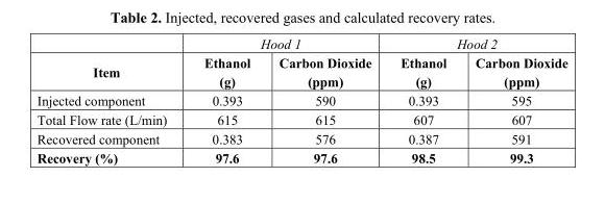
<table><thead><tr><td rowspan="2">Item</td><td colspan="2">Hood 1</td><td colspan="2">Hood 2</td></tr><tr><td>Ethanol (g)</td><td>Carbon Dioxide (ppm)</td><td>Ethanol (g)</td><td>Carbon Dioxide (ppm)</td></tr></thead><tbody><tr><td>Injected component</td><td>0.393</td><td>590</td><td>0.393</td><td>595</td></tr><tr><td>Total Flow rate (L/min)</td><td>615</td><td>615</td><td>607</td><td>607</td></tr><tr><td>Recovered component</td><td>0.383</td><td>576</td><td>0.387</td><td>591</td></tr><tr><td>Recovery (%)</td><td>97.6</td><td>97.6</td><td>98.5</td><td>99.3</td></tr></tbody></table>